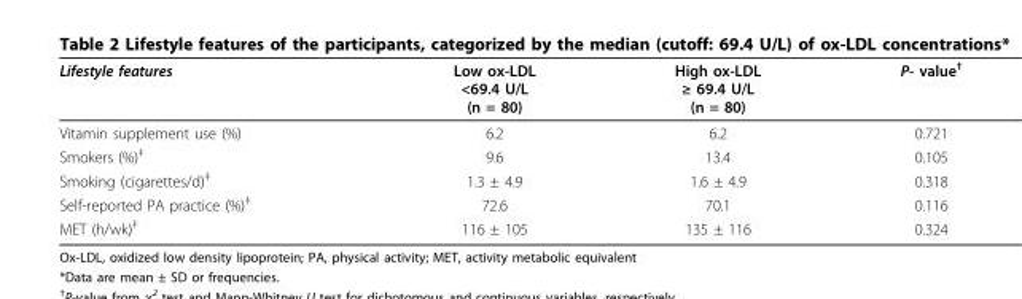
<table><thead><tr><td>Lifestyle features</td><td>Low ox-LDL &lt;69.4 U/L (n = 80)</td><td>High ox-LDL ≥ 69.4 U/L (n = 80)</td><td>P- value<sup>†</sup></td></tr></thead><tbody><tr><td>Vitamin supplement use (%)</td><td>6.2</td><td>6.2</td><td>0.721</td></tr><tr><td>Smokers (%)<sup>‡</sup></td><td>9.6</td><td>13.4</td><td>0.105</td></tr><tr><td>Smoking (cigarettes/d)<sup>‡</sup></td><td>1.3 ± 4.9</td><td>1.6 ± 4.9</td><td>0.318</td></tr><tr><td>Self-reported PA practice (%)<sup>‡</sup></td><td>72.6</td><td>70.1</td><td>0.116</td></tr><tr><td>MET (h/wk)<sup>‡</sup></td><td>116 ± 105</td><td>135 ± 116</td><td>0.324</td></tr></tbody></table>